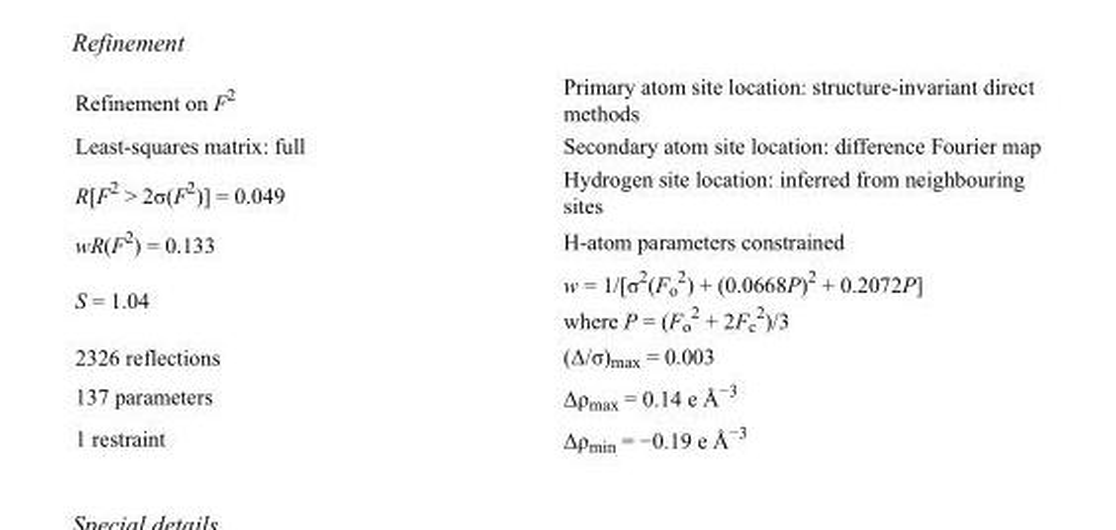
<table><tbody><tr><td>Refinement on F<sup>2</sup></td><td>Primary atom site location: structure-invariant direct methods</td></tr><tr><td>Least-squares matrix: full</td><td>Secondary atom site location: difference Fourier map</td></tr><tr><td>R[F<sup>2</sup> &gt; 2σ(F<sup>2</sup>)] = 0.049</td><td>Hydrogen site location: inferred from neighbouring sites</td></tr><tr><td>wR(F<sup>2</sup>) = 0.133</td><td>H-atom parameters constrained</td></tr><tr><td>S = 1.04</td><td>w = 1/[σ<sup>2</sup>(F<sub>o</sub> <sup>2</sup>) + (0.0668P)<sup>2</sup> + 0.2072P] where P = (F<sub>o</sub> <sup>2</sup> + 2F<sub>c</sub> <sup>2</sup>)/3</td></tr><tr><td>2326 reflections</td><td>(Δ/σ)<sub>max</sub> = 0.003</td></tr><tr><td>137 parameters</td><td>Δρ<sub>max</sub> = 0.14 e Å<sup>−3</sup></td></tr><tr><td>1 restraint</td><td>Δρ<sub>min</sub> = −0.19 e Å<sup>−3</sup></td></tr></tbody></table>